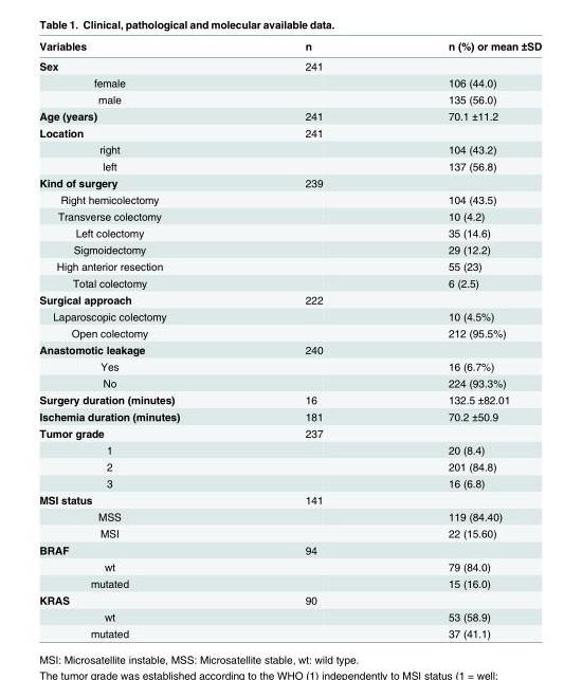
<table><thead><tr><td>Variables</td><td>n</td><td>n (%) or mean ±SD</td></tr></thead><tbody><tr><td>Sex</td><td>241</td><td></td></tr><tr><td>female</td><td></td><td>106 (44.0)</td></tr><tr><td>male</td><td></td><td>135 (56.0)</td></tr><tr><td>Age (years)</td><td>241</td><td>70.1 ±11.2</td></tr><tr><td>Location</td><td>241</td><td></td></tr><tr><td>right</td><td></td><td>104 (43.2)</td></tr><tr><td>left</td><td></td><td>137 (56.8)</td></tr><tr><td>Kind of surgery</td><td>239</td><td></td></tr><tr><td>Right hemicolectomy</td><td></td><td>104 (43.5)</td></tr><tr><td>Transverse colectomy</td><td></td><td>10 (4.2)</td></tr><tr><td>Left colectomy</td><td></td><td>35 (14.6)</td></tr><tr><td>Sigmoidectomy</td><td></td><td>29 (12.2)</td></tr><tr><td>High anterior resection</td><td></td><td>55 (23)</td></tr><tr><td>Total colectomy</td><td></td><td>6 (2.5)</td></tr><tr><td>Surgical approach</td><td>222</td><td></td></tr><tr><td>Laparoscopic colectomy</td><td></td><td>10 (4.5%)</td></tr><tr><td>Open colectomy</td><td></td><td>212 (95.5%)</td></tr><tr><td>Anastomotic leakage</td><td>240</td><td></td></tr><tr><td>Yes</td><td></td><td>16 (6.7%)</td></tr><tr><td>No</td><td></td><td>224 (93.3%)</td></tr><tr><td>Surgery duration (minutes)</td><td>16</td><td>132.5 ±82.01</td></tr><tr><td>Ischemia duration (minutes)</td><td>181</td><td>70.2 ±50.9</td></tr><tr><td>Tumor grade</td><td>237</td><td></td></tr><tr><td>1</td><td></td><td>20 (8.4)</td></tr><tr><td>2</td><td></td><td>201 (84.8)</td></tr><tr><td>3</td><td></td><td>16 (6.8)</td></tr><tr><td>MSI status</td><td>141</td><td></td></tr><tr><td>MSS</td><td></td><td>119 (84.40)</td></tr><tr><td>MSI</td><td></td><td>22 (15.60)</td></tr><tr><td>BRAF</td><td>94</td><td></td></tr><tr><td>wt</td><td></td><td>79 (84.0)</td></tr><tr><td>mutated</td><td></td><td>15 (16.0)</td></tr><tr><td>KRAS</td><td>90</td><td></td></tr><tr><td>wt</td><td></td><td>53 (58.9)</td></tr><tr><td>mutated</td><td></td><td>37 (41.1)</td></tr></tbody></table>